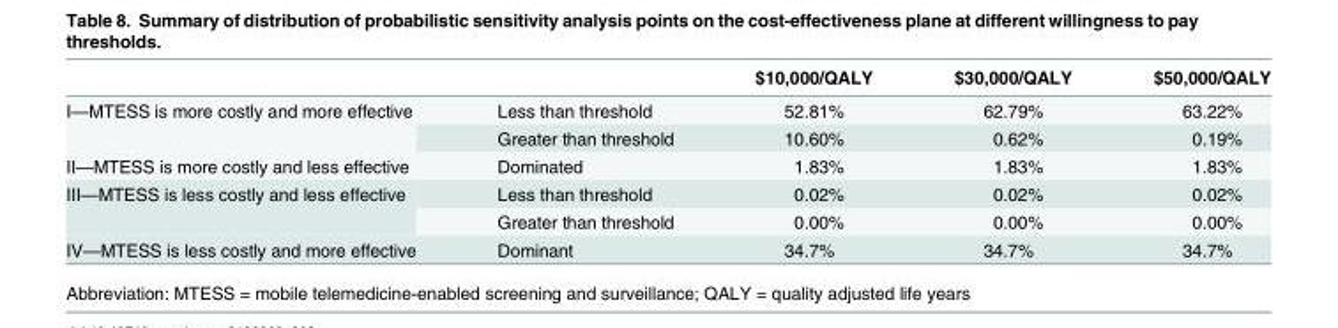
<table><thead><tr><td></td><td></td><td>$10,000/QALY</td><td>$30,000/QALY</td><td>$50,000/QALY</td></tr></thead><tbody><tr><td rowspan="2">I—MTESS is more costly and more effective</td><td>Less than threshold</td><td>52.81%</td><td>62.79%</td><td>63.22%</td></tr><tr><td>Greater than threshold</td><td>10.60%</td><td>0.62%</td><td>0.19%</td></tr><tr><td>II—MTESS is more costly and less effective</td><td>Dominated</td><td>1.83%</td><td>1.83%</td><td>1.83%</td></tr><tr><td rowspan="2">III—MTESS is less costly and less effective</td><td>Less than threshold</td><td>0.02%</td><td>0.02%</td><td>0.02%</td></tr><tr><td>Greater than threshold</td><td>0.00%</td><td>0.00%</td><td>0.00%</td></tr><tr><td>IV—MTESS is less costly and more effective</td><td>Dominant</td><td>34.7%</td><td>34.7%</td><td>34.7%</td></tr></tbody></table>